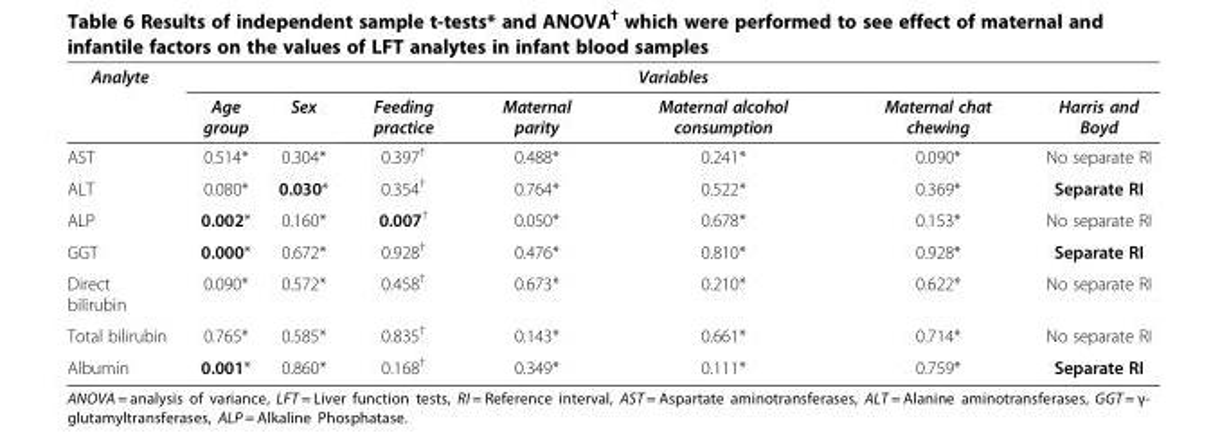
<table><thead><tr><td rowspan="2">Analyte</td><td colspan="7">Variables</td></tr><tr><td>Age group</td><td>Sex</td><td>Feeding practice</td><td>Maternal parity</td><td>Maternal alcohol consumption</td><td>Maternal chat chewing</td><td>Harris and Boyd</td></tr></thead><tbody><tr><td>AST</td><td>0.514*</td><td>0.304*</td><td>0.397<sup>†</sup></td><td>0.488*</td><td>0.241*</td><td>0.090*</td><td>No separate RI</td></tr><tr><td>ALT</td><td>0.080*</td><td>0.030*</td><td>0.354<sup>†</sup></td><td>0.764*</td><td>0.522*</td><td>0.369*</td><td>Separate RI</td></tr><tr><td>ALP</td><td>0.002*</td><td>0.160*</td><td>0.007<sup>†</sup></td><td>0.050*</td><td>0.678*</td><td>0.153*</td><td>No separate RI</td></tr><tr><td>GGT</td><td>0.000*</td><td>0.672*</td><td>0.928<sup>†</sup></td><td>0.476*</td><td>0.810*</td><td>0.928*</td><td>Separate RI</td></tr><tr><td>Direct bilirubin</td><td>0.090*</td><td>0.572*</td><td>0.458<sup>†</sup></td><td>0.673*</td><td>0.210*</td><td>0.622*</td><td>No separate RI</td></tr><tr><td>Total bilirubin</td><td>0.765*</td><td>0.585*</td><td>0.835<sup>†</sup></td><td>0.143*</td><td>0.661*</td><td>0.714*</td><td>No separate RI</td></tr><tr><td>Albumin</td><td>0.001*</td><td>0.860*</td><td>0.168<sup>†</sup></td><td>0.349*</td><td>0.111*</td><td>0.759*</td><td>Separate RI</td></tr></tbody></table>